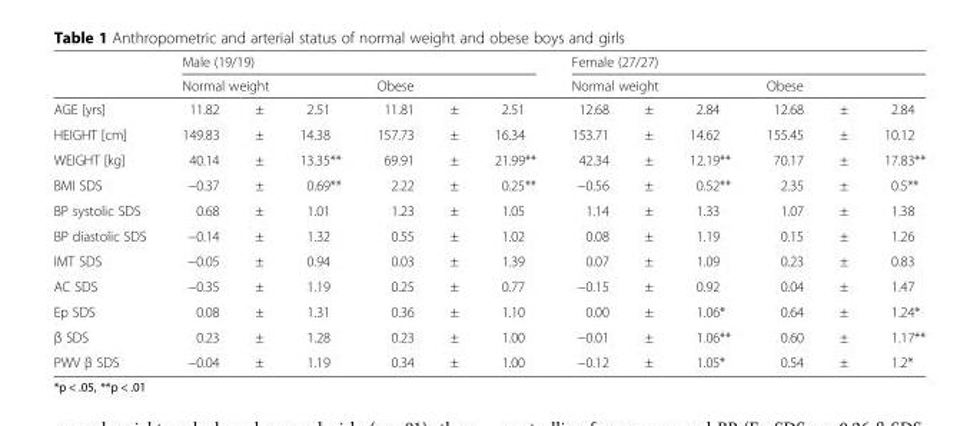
<table><thead><tr><td rowspan="3">AGE [yrs]</td><td colspan="6">Male (19/19)</td><td colspan="6">Female (27/27)</td></tr><tr><td colspan="3">Normal weight</td><td colspan="3">Obese</td><td colspan="3">Normal weight</td><td colspan="3">Obese</td></tr><tr><td>11.82</td><td>±</td><td>2.51</td><td>11.81</td><td>±</td><td>2.51</td><td>12.68</td><td>±</td><td>2.84</td><td>12.68</td><td>±</td><td>2.84</td></tr></thead><tbody><tr><td>HEIGHT [cm]</td><td>149.83</td><td>±</td><td>14.38</td><td>157.73</td><td>±</td><td>16.34</td><td>153.71</td><td>±</td><td>14.62</td><td>155.45</td><td>±</td><td>10.12</td></tr><tr><td>WEIGHT [kg]</td><td>40.14</td><td>±</td><td>13.35**</td><td>69.91</td><td>±</td><td>21.99**</td><td>42.34</td><td>±</td><td>12.19**</td><td>70.17</td><td>±</td><td>17.83**</td></tr><tr><td>BMI SDS</td><td>−0.37</td><td>±</td><td>0.69**</td><td>2.22</td><td>±</td><td>0.25**</td><td>−0.56</td><td>±</td><td>0.52**</td><td>2.35</td><td>±</td><td>0.5**</td></tr><tr><td>BP systolic SDS</td><td>0.68</td><td>±</td><td>1.01</td><td>1.23</td><td>±</td><td>1.05</td><td>1.14</td><td>±</td><td>1.33</td><td>1.07</td><td>±</td><td>1.38</td></tr><tr><td>BP diastolic SDS</td><td>−0.14</td><td>±</td><td>1.32</td><td>0.55</td><td>±</td><td>1.02</td><td>0.08</td><td>±</td><td>1.19</td><td>0.15</td><td>±</td><td>1.26</td></tr><tr><td>IMT SDS</td><td>−0.05</td><td>±</td><td>0.94</td><td>0.03</td><td>±</td><td>1.39</td><td>0.07</td><td>±</td><td>1.09</td><td>0.23</td><td>±</td><td>0.83</td></tr><tr><td>AC SDS</td><td>−0.35</td><td>±</td><td>1.19</td><td>0.25</td><td>±</td><td>0.77</td><td>−0.15</td><td>±</td><td>0.92</td><td>0.04</td><td>±</td><td>1.47</td></tr><tr><td>Ep SDS</td><td>0.08</td><td>±</td><td>1.31</td><td>0.36</td><td>±</td><td>1.10</td><td>0.00</td><td>±</td><td>1.06*</td><td>0.64</td><td>±</td><td>1.24*</td></tr><tr><td>β SDS</td><td>0.23</td><td>±</td><td>1.28</td><td>0.23</td><td>±</td><td>1.00</td><td>−0.01</td><td>±</td><td>1.06**</td><td>0.60</td><td>±</td><td>1.17**</td></tr><tr><td>PWV β SDS</td><td>−0.04</td><td>±</td><td>1.19</td><td>0.34</td><td>±</td><td>1.00</td><td>−0.12</td><td>±</td><td>1.05*</td><td>0.54</td><td>±</td><td>1.2*</td></tr></tbody></table>